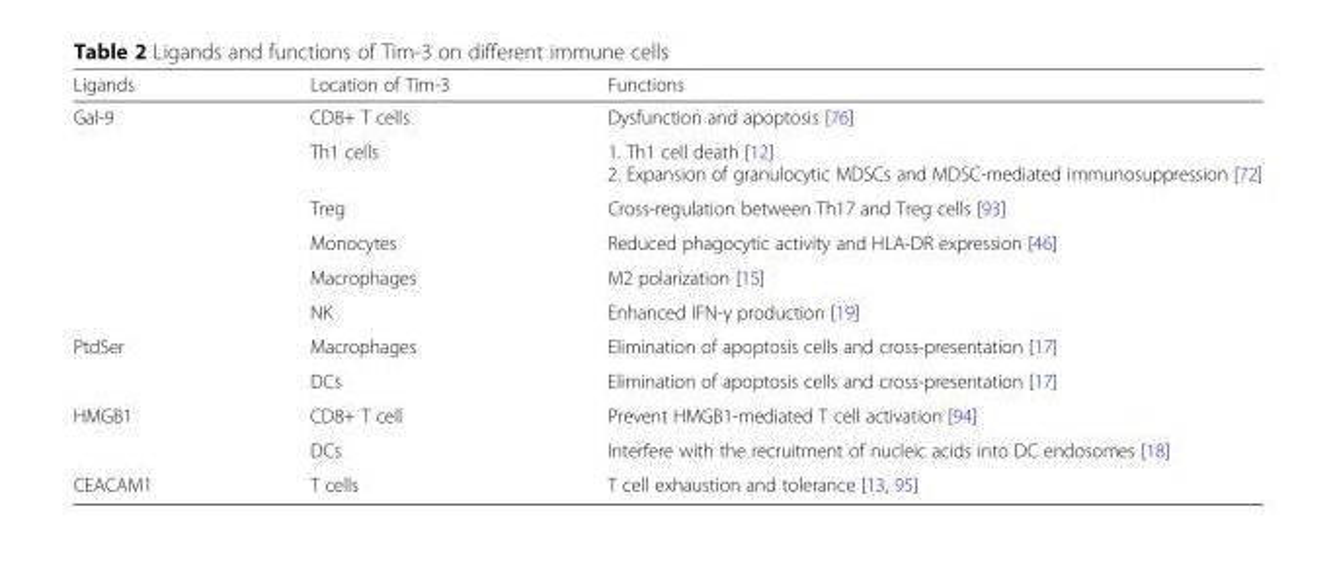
<table><thead><tr><td>Ligands</td><td>Location of Tim-3</td><td>Functions</td></tr></thead><tbody><tr><td rowspan="6">Gal-9</td><td>CD8+ T cells</td><td>Dysfunction and apoptosis [76]</td></tr><tr><td>Th1 cells</td><td>1. Th1 cell death [12] 2. Expansion of granulocytic MDSCs and MDSC-mediated immunosuppression [72]</td></tr><tr><td>Treg</td><td>Cross-regulation between Th17 and Treg cells [93]</td></tr><tr><td>Monocytes</td><td>Reduced phagocytic activity and HLA-DR expression [46]</td></tr><tr><td>Macrophages</td><td>M2 polarization [15]</td></tr><tr><td>NK</td><td>Enhanced IFN-γ production [19]</td></tr><tr><td rowspan="2">PtdSer</td><td>Macrophages</td><td>Elimination of apoptosis cells and cross-presentation [17]</td></tr><tr><td>DCs</td><td>Elimination of apoptosis cells and cross-presentation [17]</td></tr><tr><td rowspan="2">HMGB1</td><td>CD8+ T cell</td><td>Prevent HMGB1-mediated T cell activation [94]</td></tr><tr><td>DCs</td><td>Interfere with the recruitment of nucleic acids into DC endosomes [18]</td></tr><tr><td>CEACAM1</td><td>T cells</td><td>T cell exhaustion and tolerance [13, 95]</td></tr></tbody></table>